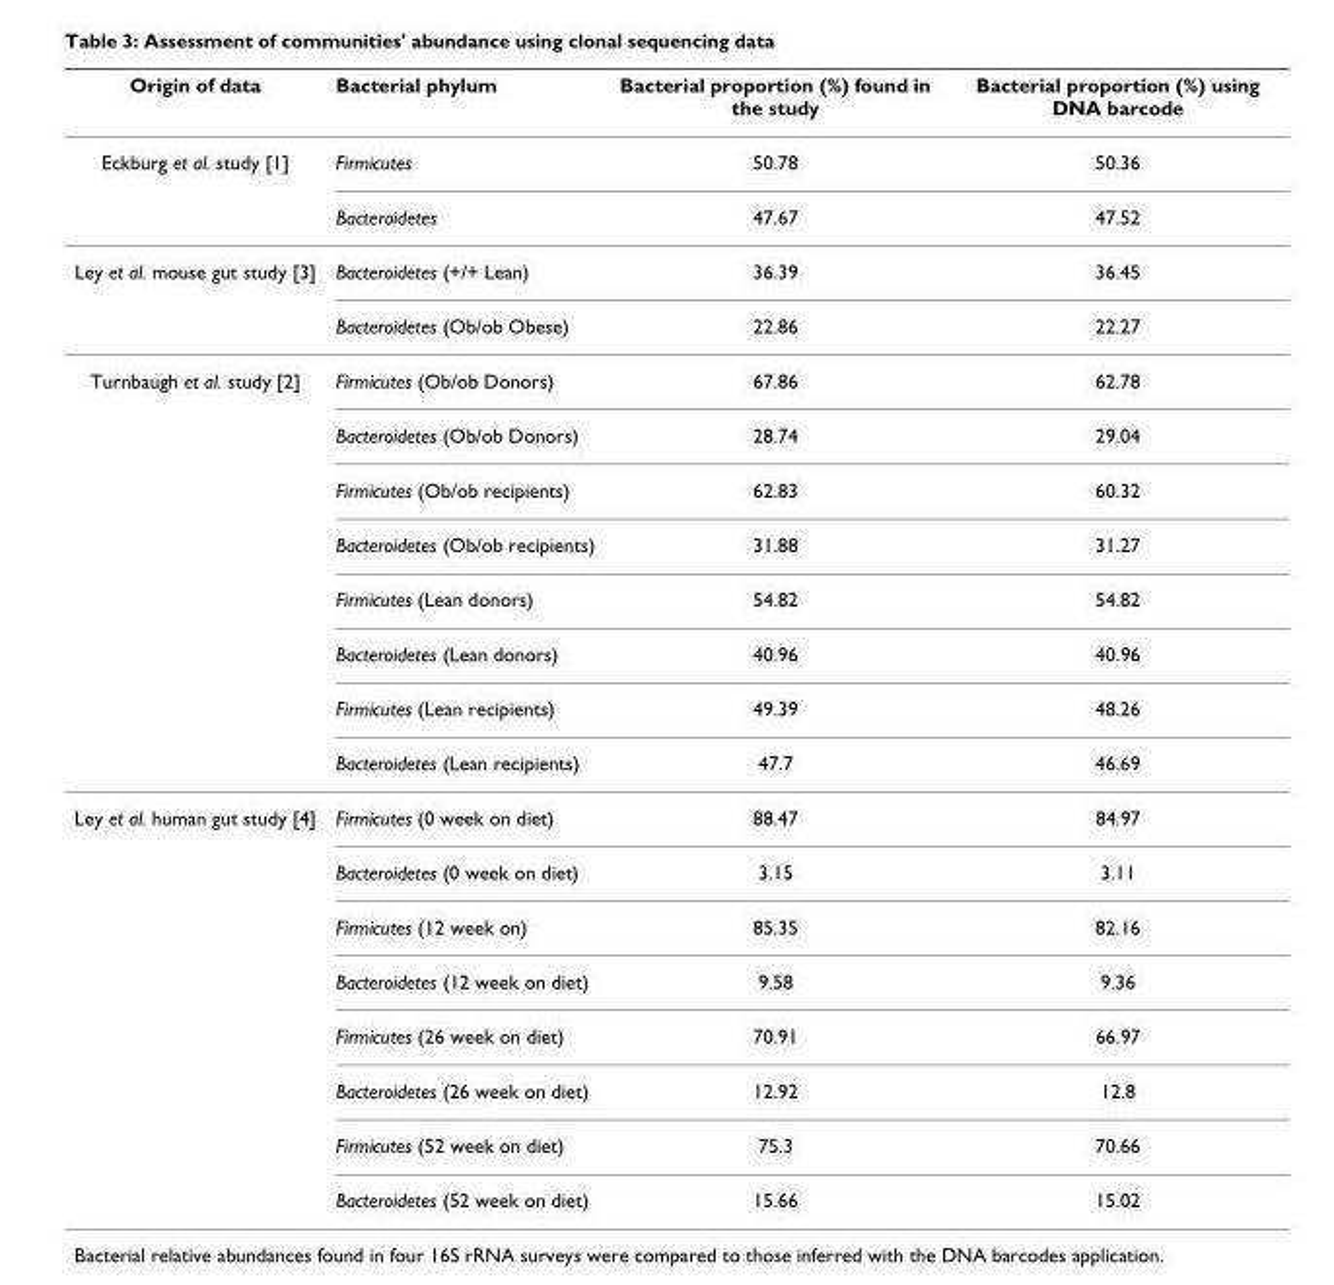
<table><thead><tr><td>Origin of data</td><td>Bacterial phylum</td><td>Bacterial proportion (%) found in the study</td><td>Bacterial proportion (%) using DNA barcode</td></tr></thead><tbody><tr><td rowspan="2">Eckburg et al. study [1]</td><td>Firmicutes</td><td>50.78</td><td>50.36</td></tr><tr><td>Bacteroidetes</td><td>47.67</td><td>47.52</td></tr><tr><td rowspan="2">Ley et al. mouse gut study [3]</td><td>Bacteroidetes (+/+ Lean)</td><td>36.39</td><td>36.45</td></tr><tr><td>Bacteroidetes (Ob/ob Obese)</td><td>22.86</td><td>22.27</td></tr><tr><td rowspan="8">Turnbaugh et al. study [2]</td><td>Firmicutes (Ob/ob Donors)</td><td>67.86</td><td>62.78</td></tr><tr><td>Bacteroidetes (Ob/ob Donors)</td><td>28.74</td><td>29.04</td></tr><tr><td>Firmicutes (Ob/ob recipients)</td><td>62.83</td><td>60.32</td></tr><tr><td>Bacteroidetes (Ob/ob recipients)</td><td>31.88</td><td>31.27</td></tr><tr><td>Firmicutes (Lean donors)</td><td>54.82</td><td>54.82</td></tr><tr><td>Bacteroidetes (Lean donors)</td><td>40.96</td><td>40.96</td></tr><tr><td>Firmicutes (Lean recipients)</td><td>49.39</td><td>48.26</td></tr><tr><td>Bacteroidetes (Lean recipients)</td><td>47.7</td><td>46.69</td></tr><tr><td rowspan="8">Ley et al. human gut study [4]</td><td>Firmicutes (0 week on diet)</td><td>88.47</td><td>84.97</td></tr><tr><td>Bacteroidetes (0 week on diet)</td><td>3.15</td><td>3.11</td></tr><tr><td>Firmicutes (12 week on)</td><td>85.35</td><td>82.16</td></tr><tr><td>Bacteroidetes (12 week on diet)</td><td>9.58</td><td>9.36</td></tr><tr><td>Firmicutes (26 week on diet)</td><td>70.91</td><td>66.97</td></tr><tr><td>Bacteroidetes (26 week on diet)</td><td>12.92</td><td>12.8</td></tr><tr><td>Firmicutes (52 week on diet)</td><td>75.3</td><td>70.66</td></tr><tr><td>Bacteroidetes (52 week on diet)</td><td>15.66</td><td>15.02</td></tr></tbody></table>